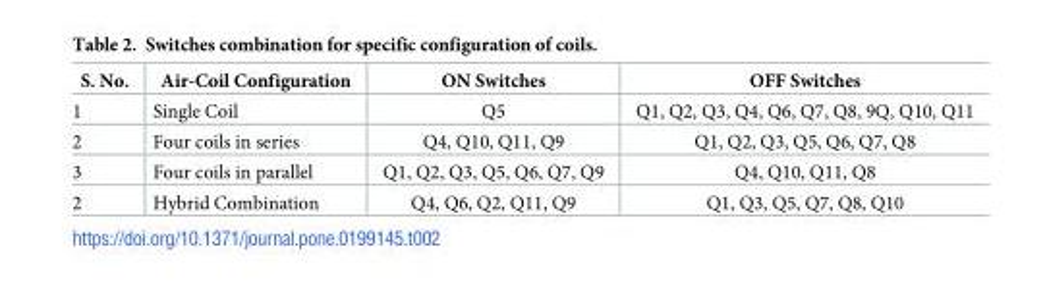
<table><thead><tr><td>S. No.</td><td>Air-Coil Configuration</td><td>ON Switches</td><td>OFF Switches</td></tr></thead><tbody><tr><td>1</td><td>Single Coil</td><td>Q5</td><td>Q1, Q2, Q3, Q4, Q6, Q7, Q8, 9Q, Q10, Q11</td></tr><tr><td>2</td><td>Four coils in series</td><td>Q4, Q10, Q11, Q9</td><td>Q1, Q2, Q3, Q5, Q6, Q7, Q8</td></tr><tr><td>3</td><td>Four coils in parallel</td><td>Q1, Q2, Q3, Q5, Q6, Q7, Q9</td><td>Q4, Q10, Q11, Q8</td></tr><tr><td>2</td><td>Hybrid Combination</td><td>Q4, Q6, Q2, Q11, Q9</td><td>Q1, Q3, Q5, Q7, Q8, Q10</td></tr></tbody></table>